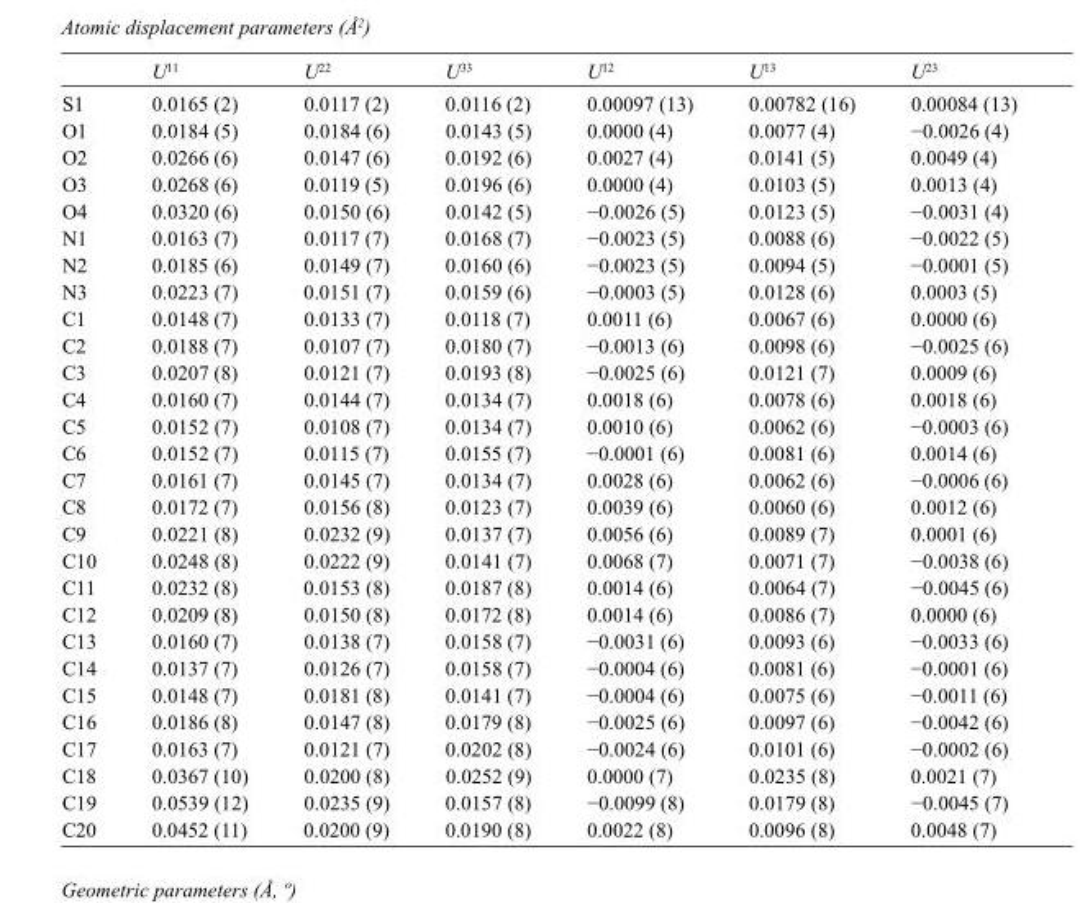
<table><thead><tr><td></td><td>U<sup>11</sup></td><td>U<sup>22</sup></td><td>U<sup>33</sup></td><td>U<sup>12</sup></td><td>U<sup>13</sup></td><td>U<sup>23</sup></td></tr></thead><tbody><tr><td>S1</td><td>0.0165 (2)</td><td>0.0117 (2)</td><td>0.0116 (2)</td><td>0.00097 (13)</td><td>0.00782 (16)</td><td>0.00084 (13)</td></tr><tr><td>O1</td><td>0.0184 (5)</td><td>0.0184 (6)</td><td>0.0143 (5)</td><td>0.0000 (4)</td><td>0.0077 (4)</td><td>−0.0026 (4)</td></tr><tr><td>O2</td><td>0.0266 (6)</td><td>0.0147 (6)</td><td>0.0192 (6)</td><td>0.0027 (4)</td><td>0.0141 (5)</td><td>0.0049 (4)</td></tr><tr><td>O3</td><td>0.0268 (6)</td><td>0.0119 (5)</td><td>0.0196 (6)</td><td>0.0000 (4)</td><td>0.0103 (5)</td><td>0.0013 (4)</td></tr><tr><td>O4</td><td>0.0320 (6)</td><td>0.0150 (6)</td><td>0.0142 (5)</td><td>−0.0026 (5)</td><td>0.0123 (5)</td><td>−0.0031 (4)</td></tr><tr><td>N1</td><td>0.0163 (7)</td><td>0.0117 (7)</td><td>0.0168 (7)</td><td>−0.0023 (5)</td><td>0.0088 (6)</td><td>−0.0022 (5)</td></tr><tr><td>N2</td><td>0.0185 (6)</td><td>0.0149 (7)</td><td>0.0160 (6)</td><td>−0.0023 (5)</td><td>0.0094 (5)</td><td>−0.0001 (5)</td></tr><tr><td>N3</td><td>0.0223 (7)</td><td>0.0151 (7)</td><td>0.0159 (6)</td><td>−0.0003 (5)</td><td>0.0128 (6)</td><td>0.0003 (5)</td></tr><tr><td>C1</td><td>0.0148 (7)</td><td>0.0133 (7)</td><td>0.0118 (7)</td><td>0.0011 (6)</td><td>0.0067 (6)</td><td>0.0000 (6)</td></tr><tr><td>C2</td><td>0.0188 (7)</td><td>0.0107 (7)</td><td>0.0180 (7)</td><td>−0.0013 (6)</td><td>0.0098 (6)</td><td>−0.0025 (6)</td></tr><tr><td>C3</td><td>0.0207 (8)</td><td>0.0121 (7)</td><td>0.0193 (8)</td><td>−0.0025 (6)</td><td>0.0121 (7)</td><td>0.0009 (6)</td></tr><tr><td>C4</td><td>0.0160 (7)</td><td>0.0144 (7)</td><td>0.0134 (7)</td><td>0.0018 (6)</td><td>0.0078 (6)</td><td>0.0018 (6)</td></tr><tr><td>C5</td><td>0.0152 (7)</td><td>0.0108 (7)</td><td>0.0134 (7)</td><td>0.0010 (6)</td><td>0.0062 (6)</td><td>−0.0003 (6)</td></tr><tr><td>C6</td><td>0.0152 (7)</td><td>0.0115 (7)</td><td>0.0155 (7)</td><td>−0.0001 (6)</td><td>0.0081 (6)</td><td>0.0014 (6)</td></tr><tr><td>C7</td><td>0.0161 (7)</td><td>0.0145 (7)</td><td>0.0134 (7)</td><td>0.0028 (6)</td><td>0.0062 (6)</td><td>−0.0006 (6)</td></tr><tr><td>C8</td><td>0.0172 (7)</td><td>0.0156 (8)</td><td>0.0123 (7)</td><td>0.0039 (6)</td><td>0.0060 (6)</td><td>0.0012 (6)</td></tr><tr><td>C9</td><td>0.0221 (8)</td><td>0.0232 (9)</td><td>0.0137 (7)</td><td>0.0056 (6)</td><td>0.0089 (7)</td><td>0.0001 (6)</td></tr><tr><td>C10</td><td>0.0248 (8)</td><td>0.0222 (9)</td><td>0.0141 (7)</td><td>0.0068 (7)</td><td>0.0071 (7)</td><td>−0.0038 (6)</td></tr><tr><td>C11</td><td>0.0232 (8)</td><td>0.0153 (8)</td><td>0.0187 (8)</td><td>0.0014 (6)</td><td>0.0064 (7)</td><td>−0.0045 (6)</td></tr><tr><td>C12</td><td>0.0209 (8)</td><td>0.0150 (8)</td><td>0.0172 (8)</td><td>0.0014 (6)</td><td>0.0086 (7)</td><td>0.0000 (6)</td></tr><tr><td>C13</td><td>0.0160 (7)</td><td>0.0138 (7)</td><td>0.0158 (7)</td><td>−0.0031 (6)</td><td>0.0093 (6)</td><td>−0.0033 (6)</td></tr><tr><td>C14</td><td>0.0137 (7)</td><td>0.0126 (7)</td><td>0.0158 (7)</td><td>−0.0004 (6)</td><td>0.0081 (6)</td><td>−0.0001 (6)</td></tr><tr><td>C15</td><td>0.0148 (7)</td><td>0.0181 (8)</td><td>0.0141 (7)</td><td>−0.0004 (6)</td><td>0.0075 (6)</td><td>−0.0011 (6)</td></tr><tr><td>C16</td><td>0.0186 (8)</td><td>0.0147 (8)</td><td>0.0179 (8)</td><td>−0.0025 (6)</td><td>0.0097 (6)</td><td>−0.0042 (6)</td></tr><tr><td>C17</td><td>0.0163 (7)</td><td>0.0121 (7)</td><td>0.0202 (8)</td><td>−0.0024 (6)</td><td>0.0101 (6)</td><td>−0.0002 (6)</td></tr><tr><td>C18</td><td>0.0367 (10)</td><td>0.0200 (8)</td><td>0.0252 (9)</td><td>0.0000 (7)</td><td>0.0235 (8)</td><td>0.0021 (7)</td></tr><tr><td>C19</td><td>0.0539 (12)</td><td>0.0235 (9)</td><td>0.0157 (8)</td><td>−0.0099 (8)</td><td>0.0179 (8)</td><td>−0.0045 (7)</td></tr><tr><td>C20</td><td>0.0452 (11)</td><td>0.0200 (9)</td><td>0.0190 (8)</td><td>0.0022 (8)</td><td>0.0096 (8)</td><td>0.0048 (7)</td></tr></tbody></table>